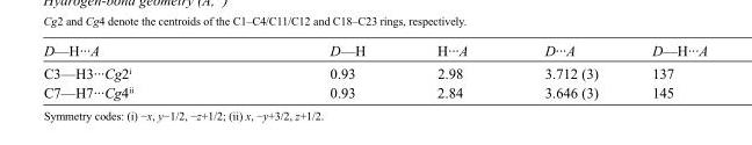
<table><tbody><tr><td>D—H···A</td><td>D—H</td><td>H···A</td><td>D···A</td><td>D—H···A</td></tr><tr><td>C3—H3···Cg2<sup>i</sup></td><td>0.93</td><td>2.98</td><td>3.712 (3)</td><td>137</td></tr><tr><td>C7—H7···Cg4<sup>ii</sup></td><td>0.93</td><td>2.84</td><td>3.646 (3)</td><td>145</td></tr></tbody></table>